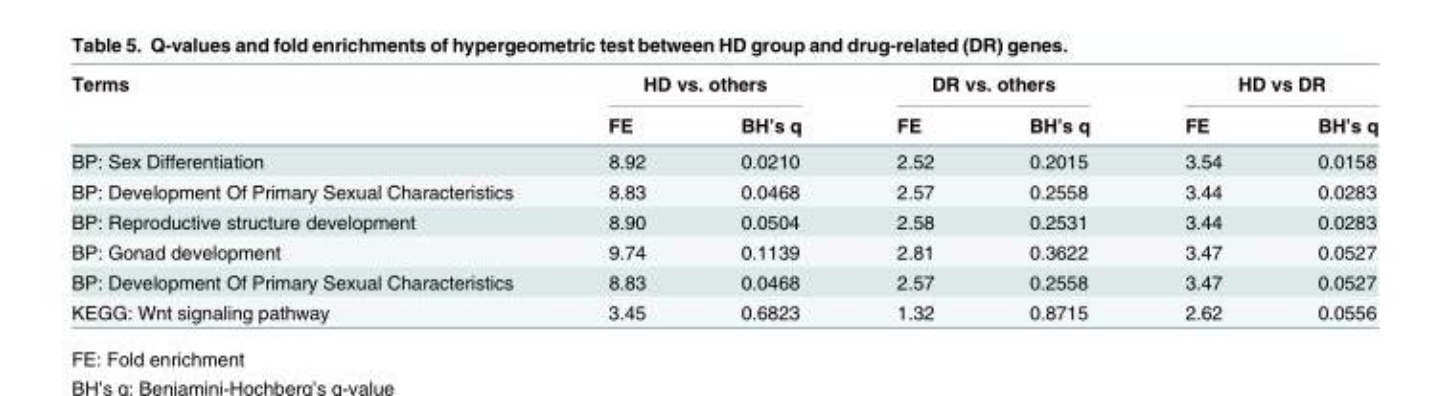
<table><thead><tr><td rowspan="2">Terms</td><td colspan="2">HD vs. others</td><td colspan="2">DR vs. others</td><td colspan="2">HD vs DR</td></tr><tr><td>FE</td><td>BH’s q</td><td>FE</td><td>BH’s q</td><td>FE</td><td>BH’s q</td></tr></thead><tbody><tr><td>BP: Sex Differentiation</td><td>8.92</td><td>0.0210</td><td>2.52</td><td>0.2015</td><td>3.54</td><td>0.0158</td></tr><tr><td>BP: Development Of Primary Sexual Characteristics</td><td>8.83</td><td>0.0468</td><td>2.57</td><td>0.2558</td><td>3.44</td><td>0.0283</td></tr><tr><td>BP: Reproductive structure development</td><td>8.90</td><td>0.0504</td><td>2.58</td><td>0.2531</td><td>3.44</td><td>0.0283</td></tr><tr><td>BP: Gonad development</td><td>9.74</td><td>0.1139</td><td>2.81</td><td>0.3622</td><td>3.47</td><td>0.0527</td></tr><tr><td>BP: Development Of Primary Sexual Characteristics</td><td>8.83</td><td>0.0468</td><td>2.57</td><td>0.2558</td><td>3.47</td><td>0.0527</td></tr><tr><td>KEGG: Wnt signaling pathway</td><td>3.45</td><td>0.6823</td><td>1.32</td><td>0.8715</td><td>2.62</td><td>0.0556</td></tr></tbody></table>